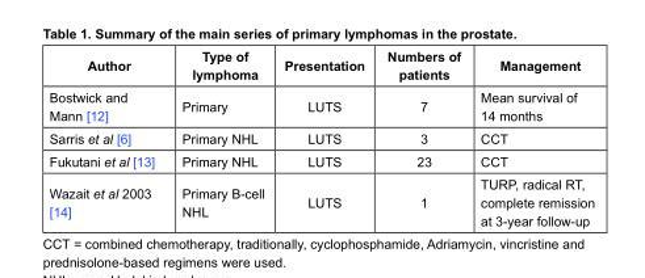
<table><thead><tr><td>Author</td><td>Type of lymphoma</td><td>Presentation</td><td>Numbers of patients</td><td>Management</td></tr></thead><tbody><tr><td>Bostwick and Mann [12]</td><td>Primary</td><td>LUTS</td><td>7</td><td>Mean survival of 14 months</td></tr><tr><td>Sarris et al [6]</td><td>Primary NHL</td><td>LUTS</td><td>3</td><td>CCT</td></tr><tr><td>Fukutani et al [13]</td><td>Primary NHL</td><td>LUTS</td><td>23</td><td>CCT</td></tr><tr><td>Wazait et al 2003 [14]</td><td>Primary B-cell NHL</td><td>LUTS</td><td>1</td><td>TURP, radical RT, complete remission at 3-year follow-up</td></tr></tbody></table>